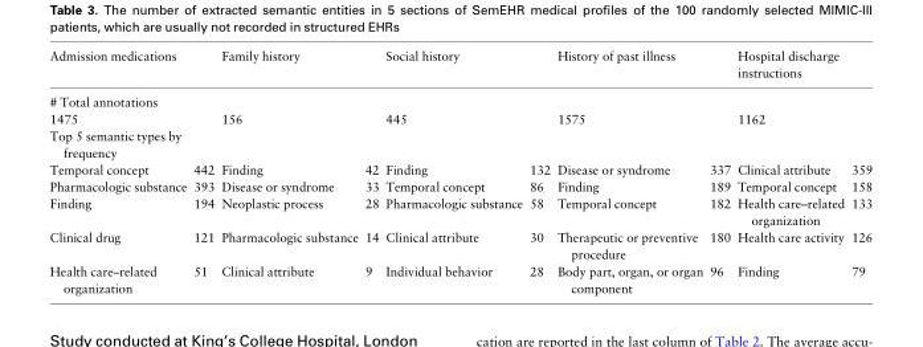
<table><thead><tr><td colspan="2">Admission medications</td><td colspan="2">Family history</td><td colspan="2">Social history</td><td colspan="2">History of past illness</td><td colspan="2">Hospital discharge instructions</td></tr></thead><tbody><tr><td colspan="10"># Total annotations</td></tr><tr><td colspan="2">1475</td><td colspan="2">156</td><td colspan="2">445</td><td colspan="2">1575</td><td colspan="2">1162</td></tr><tr><td colspan="10">Top 5 semantic types by frequency</td></tr><tr><td>Temporal concept</td><td>442</td><td>Finding</td><td>42</td><td>Finding</td><td>132</td><td>Disease or syndrome</td><td>337</td><td>Clinical attribute</td><td>359</td></tr><tr><td>Pharmacologic substance</td><td>393</td><td>Disease or syndrome</td><td>33</td><td>Temporal concept</td><td>86</td><td>Finding</td><td>189</td><td>Temporal concept</td><td>158</td></tr><tr><td>Finding</td><td>194</td><td>Neoplastic process</td><td>28</td><td>Pharmacologic substance</td><td>58</td><td>Temporal concept</td><td>182</td><td>Health care–related organization</td><td>133</td></tr><tr><td>Clinical drug</td><td>121</td><td>Pharmacologic substance</td><td>14</td><td>Clinical attribute</td><td>30</td><td>Therapeutic or preventive procedure</td><td>180</td><td>Health care activity</td><td>126</td></tr><tr><td>Health care–related organization</td><td>51</td><td>Clinical attribute</td><td>9</td><td>Individual behavior</td><td>28</td><td>Body part, organ, or organ component</td><td>96</td><td>Finding</td><td>79</td></tr></tbody></table>